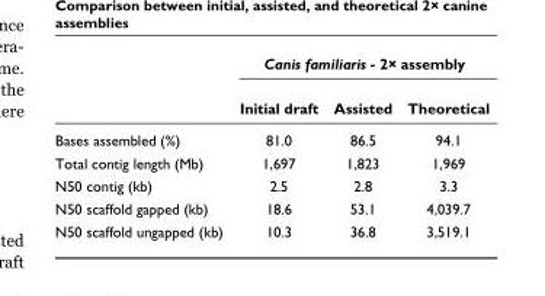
<table><thead><tr><td rowspan="2"></td><td colspan="3">Canis familiaris - 2× assembly</td></tr><tr><td>Initial draft</td><td>Assisted</td><td>Theoretical</td></tr></thead><tbody><tr><td>Bases assembled (%)</td><td>81.0</td><td>86.5</td><td>94.1</td></tr><tr><td>Total contig length (Mb)</td><td>1,697</td><td>1,823</td><td>1,969</td></tr><tr><td>N50 contig (kb)</td><td>2.5</td><td>2.8</td><td>3.3</td></tr><tr><td>N50 scaffold gapped (kb)</td><td>18.6</td><td>53.1</td><td>4,039.7</td></tr><tr><td>N50 scaffold ungapped (kb)</td><td>10.3</td><td>36.8</td><td>3,519.1</td></tr></tbody></table>